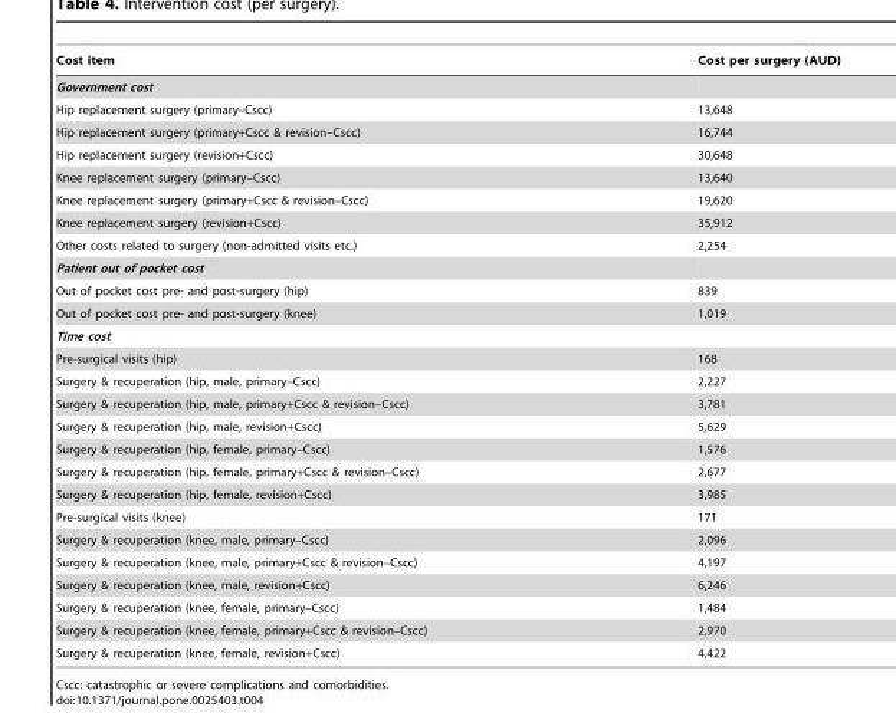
<table><thead><tr><td>Cost item</td><td>Cost per surgery (AUD)</td></tr></thead><tbody><tr><td colspan="2">Government cost</td></tr><tr><td>Hip replacement surgery (primary–Cscc)</td><td>13,648</td></tr><tr><td>Hip replacement surgery (primary+Cscc &amp; revision–Cscc)</td><td>16,744</td></tr><tr><td>Hip replacement surgery (revision+Cscc)</td><td>30,648</td></tr><tr><td>Knee replacement surgery (primary–Cscc)</td><td>13,640</td></tr><tr><td>Knee replacement surgery (primary+Cscc &amp; revision–Cscc)</td><td>19,620</td></tr><tr><td>Knee replacement surgery (revision+Cscc)</td><td>35,912</td></tr><tr><td>Other costs related to surgery (non-admitted visits etc.)</td><td>2,254</td></tr><tr><td colspan="2">Patient out of pocket cost</td></tr><tr><td>Out of pocket cost pre- and post-surgery (hip)</td><td>839</td></tr><tr><td>Out of pocket cost pre- and post-surgery (knee)</td><td>1,019</td></tr><tr><td colspan="2">Time cost</td></tr><tr><td>Pre-surgical visits (hip)</td><td>168</td></tr><tr><td>Surgery &amp; recuperation (hip, male, primary–Cscc)</td><td>2,227</td></tr><tr><td>Surgery &amp; recuperation (hip, male, primary+Cscc &amp; revision–Cscc)</td><td>3,781</td></tr><tr><td>Surgery &amp; recuperation (hip, male, revision+Cscc)</td><td>5,629</td></tr><tr><td>Surgery &amp; recuperation (hip, female, primary–Cscc)</td><td>1,576</td></tr><tr><td>Surgery &amp; recuperation (hip, female, primary+Cscc &amp; revision–Cscc)</td><td>2,677</td></tr><tr><td>Surgery &amp; recuperation (hip, female, revision+Cscc)</td><td>3,985</td></tr><tr><td>Pre-surgical visits (knee)</td><td>171</td></tr><tr><td>Surgery &amp; recuperation (knee, male, primary–Cscc)</td><td>2,096</td></tr><tr><td>Surgery &amp; recuperation (knee, male, primary+Cscc &amp; revision–Cscc)</td><td>4,197</td></tr><tr><td>Surgery &amp; recuperation (knee, male, revision+Cscc)</td><td>6,246</td></tr><tr><td>Surgery &amp; recuperation (knee, female, primary–Cscc)</td><td>1,484</td></tr><tr><td>Surgery &amp; recuperation (knee, female, primary+Cscc &amp; revision–Cscc)</td><td>2,970</td></tr><tr><td>Surgery &amp; recuperation (knee, female, revision+Cscc)</td><td>4,422</td></tr></tbody></table>